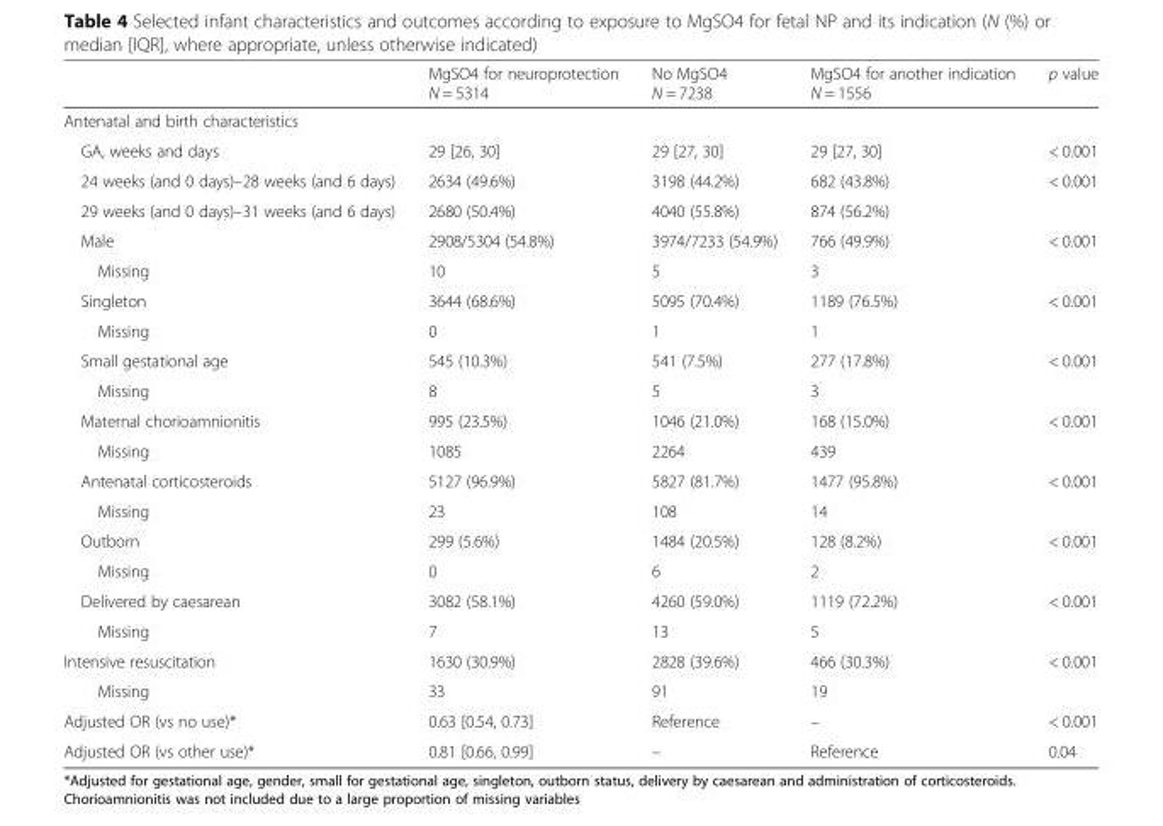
<table><thead><tr><td></td><td>MgSO4 for neuroprotection N = 5314</td><td>No MgSO4 N = 7238</td><td>MgSO4 for another indication N = 1556</td><td>p value</td></tr></thead><tbody><tr><td colspan="5">Antenatal and birth characteristics</td></tr><tr><td>GA, weeks and days</td><td>29 [26, 30]</td><td>29 [27, 30]</td><td>29 [27, 30]</td><td>&lt; 0.001</td></tr><tr><td>24 weeks (and 0 days)–28 weeks (and 6 days)</td><td>2634 (49.6%)</td><td>3198 (44.2%)</td><td>682 (43.8%)</td><td rowspan="2">&lt; 0.001</td></tr><tr><td>29 weeks (and 0 days)–31 weeks (and 6 days)</td><td>2680 (50.4%)</td><td>4040 (55.8%)</td><td>874 (56.2%)</td></tr><tr><td>Male</td><td>2908/5304 (54.8%)</td><td>3974/7233 (54.9%)</td><td>766 (49.9%)</td><td>&lt; 0.001</td></tr><tr><td>Missing</td><td>10</td><td>5</td><td>3</td><td></td></tr><tr><td>Singleton</td><td>3644 (68.6%)</td><td>5095 (70.4%)</td><td>1189 (76.5%)</td><td>&lt; 0.001</td></tr><tr><td>Missing</td><td>0</td><td>1</td><td>1</td><td></td></tr><tr><td>Small gestational age</td><td>545 (10.3%)</td><td>541 (7.5%)</td><td>277 (17.8%)</td><td>&lt; 0.001</td></tr><tr><td>Missing</td><td>8</td><td>5</td><td>3</td><td></td></tr><tr><td>Maternal chorioamnionitis</td><td>995 (23.5%)</td><td>1046 (21.0%)</td><td>168 (15.0%)</td><td>&lt; 0.001</td></tr><tr><td>Missing</td><td>1085</td><td>2264</td><td>439</td><td></td></tr><tr><td>Antenatal corticosteroids</td><td>5127 (96.9%)</td><td>5827 (81.7%)</td><td>1477 (95.8%)</td><td>&lt; 0.001</td></tr><tr><td>Missing</td><td>23</td><td>108</td><td>14</td><td></td></tr><tr><td>Outborn</td><td>299 (5.6%)</td><td>1484 (20.5%)</td><td>128 (8.2%)</td><td>&lt; 0.001</td></tr><tr><td>Missing</td><td>0</td><td>6</td><td>2</td><td></td></tr><tr><td>Delivered by caesarean</td><td>3082 (58.1%)</td><td>4260 (59.0%)</td><td>1119 (72.2%)</td><td>&lt; 0.001</td></tr><tr><td>Missing</td><td>7</td><td>13</td><td>5</td><td></td></tr><tr><td>Intensive resuscitation</td><td>1630 (30.9%)</td><td>2828 (39.6%)</td><td>466 (30.3%)</td><td>&lt; 0.001</td></tr><tr><td>Missing</td><td>33</td><td>91</td><td>19</td><td></td></tr><tr><td>Adjusted OR (vs no use)*</td><td>0.63 [0.54, 0.73]</td><td>Reference</td><td>–</td><td>&lt; 0.001</td></tr><tr><td>Adjusted OR (vs other use)*</td><td>0.81 [0.66, 0.99]</td><td>–</td><td>Reference</td><td>0.04</td></tr></tbody></table>